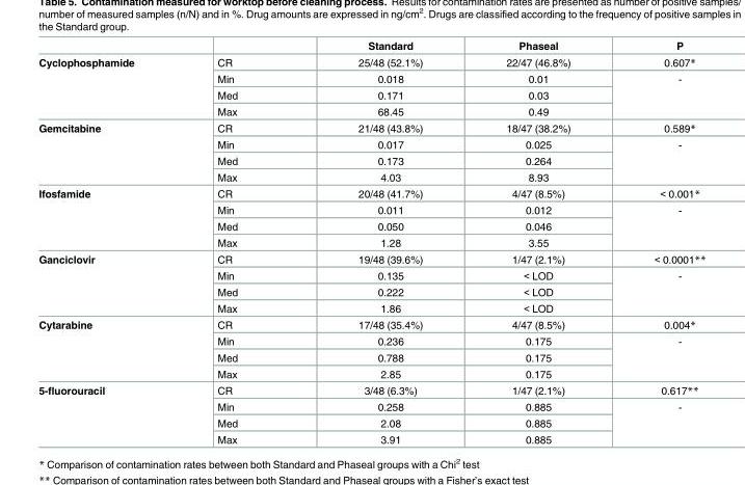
<table><thead><tr><td></td><td></td><td>Standard</td><td>Phaseal</td><td>P</td></tr></thead><tbody><tr><td rowspan="4">Cyclophosphamide</td><td>CR</td><td>25/48 (52.1%)</td><td>22/47 (46.8%)</td><td>0.607*</td></tr><tr><td>Min</td><td>0.018</td><td>0.01</td><td rowspan="3">-</td></tr><tr><td>Med</td><td>0.171</td><td>0.03</td></tr><tr><td>Max</td><td>68.45</td><td>0.49</td></tr><tr><td rowspan="4">Gemcitabine</td><td>CR</td><td>21/48 (43.8%)</td><td>18/47 (38.2%)</td><td>0.589*</td></tr><tr><td>Min</td><td>0.017</td><td>0.025</td><td rowspan="3">-</td></tr><tr><td>Med</td><td>0.173</td><td>0.264</td></tr><tr><td>Max</td><td>4.03</td><td>8.93</td></tr><tr><td rowspan="4">Ifosfamide</td><td>CR</td><td>20/48 (41.7%)</td><td>4/47 (8.5%)</td><td>&lt; 0.001*</td></tr><tr><td>Min</td><td>0.011</td><td>0.012</td><td rowspan="3">-</td></tr><tr><td>Med</td><td>0.050</td><td>0.046</td></tr><tr><td>Max</td><td>1.28</td><td>3.55</td></tr><tr><td rowspan="4">Ganciclovir</td><td>CR</td><td>19/48 (39.6%)</td><td>1/47 (2.1%)</td><td>&lt; 0.0001**</td></tr><tr><td>Min</td><td>0.135</td><td>&lt; LOD</td><td rowspan="3">-</td></tr><tr><td>Med</td><td>0.222</td><td>&lt; LOD</td></tr><tr><td>Max</td><td>1.86</td><td>&lt; LOD</td></tr><tr><td rowspan="4">Cytarabine</td><td>CR</td><td>17/48 (35.4%)</td><td>4/47 (8.5%)</td><td>0.004*</td></tr><tr><td>Min</td><td>0.236</td><td>0.175</td><td rowspan="3">-</td></tr><tr><td>Med</td><td>0.788</td><td>0.175</td></tr><tr><td>Max</td><td>2.85</td><td>0.175</td></tr><tr><td rowspan="4">5-fluorouracil</td><td>CR</td><td>3/48 (6.3%)</td><td>1/47 (2.1%)</td><td>0.617**</td></tr><tr><td>Min</td><td>0.258</td><td>0.885</td><td rowspan="3">-</td></tr><tr><td>Med</td><td>2.08</td><td>0.885</td></tr><tr><td>Max</td><td>3.91</td><td>0.885</td></tr></tbody></table>